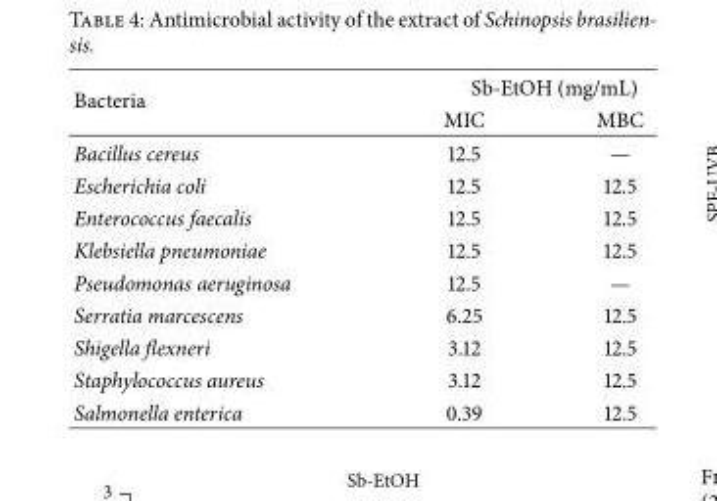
<table><thead><tr><td rowspan="2">Bacteria</td><td colspan="2">Sb-EtOH (mg/mL)</td></tr><tr><td>MIC</td><td>MBC</td></tr></thead><tbody><tr><td>Bacillus cereus</td><td>12.5</td><td>—</td></tr><tr><td>Escherichia coli</td><td>12.5</td><td>12.5</td></tr><tr><td>Enterococcus faecalis</td><td>12.5</td><td>12.5</td></tr><tr><td>Klebsiella pneumoniae</td><td>12.5</td><td>12.5</td></tr><tr><td>Pseudomonas aeruginosa</td><td>12.5</td><td>—</td></tr><tr><td>Serratia marcescens</td><td>6.25</td><td>12.5</td></tr><tr><td>Shigella flexneri</td><td>3.12</td><td>12.5</td></tr><tr><td>Staphylococcus aureus</td><td>3.12</td><td>12.5</td></tr><tr><td>Salmonella enterica</td><td>0.39</td><td>12.5</td></tr></tbody></table>